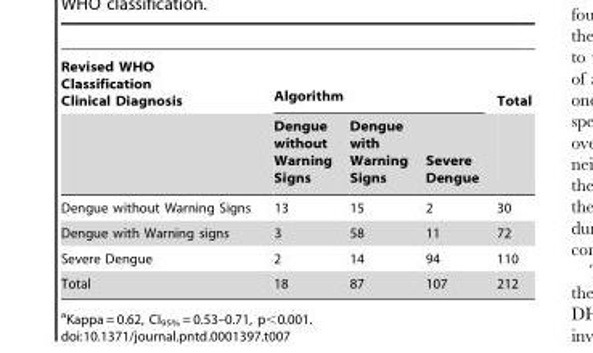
<table><thead><tr><td rowspan="2">Revised WHO Classification Clinical Diagnosis</td><td colspan="3">Algorithm</td><td rowspan="2">Total</td></tr><tr><td>Dengue without Warning Signs</td><td>Dengue with Warning Signs</td><td>Severe Dengue</td></tr></thead><tbody><tr><td>Dengue without Warning Signs</td><td>13</td><td>15</td><td>2</td><td>30</td></tr><tr><td>Dengue with Warning signs</td><td>3</td><td>58</td><td>11</td><td>72</td></tr><tr><td>Severe Dengue</td><td>2</td><td>14</td><td>94</td><td>110</td></tr><tr><td>Total</td><td>18</td><td>87</td><td>107</td><td>212</td></tr></tbody></table>